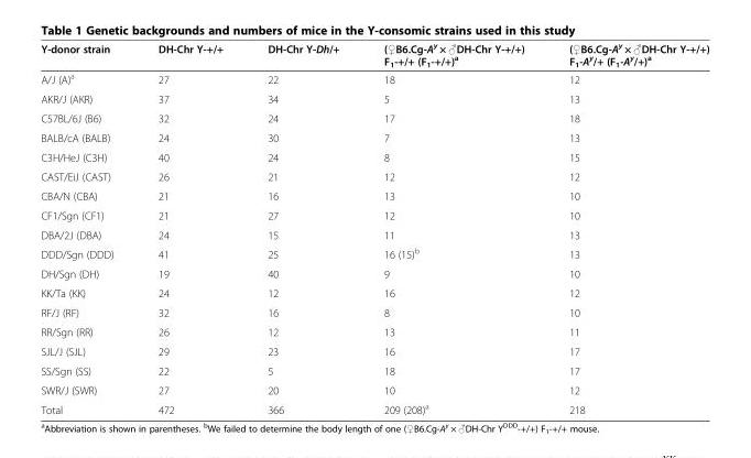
<table><thead><tr><td>Y-donor strain</td><td>DH-Chr Y-+/+</td><td>DH-Chr Y-Dh/+</td><td>(♀B6.Cg-A<sup>y</sup> × ♂DH-Chr Y-+/+) F<sub>1</sub>-+/+ (F<sub>1</sub>-+/+)<sup>a</sup></td><td>(♀B6.Cg-Ay × ♂DH-Chr Y-+/+) F1-Ay/+ (F1-Ay/+)a</td></tr></thead><tbody><tr><td>A/J (A)<sup>a</sup></td><td>27</td><td>22</td><td>18</td><td>12</td></tr><tr><td>AKR/J (AKR)</td><td>37</td><td>34</td><td>5</td><td>13</td></tr><tr><td>C57BL/6J (B6)</td><td>32</td><td>24</td><td>17</td><td>18</td></tr><tr><td>BALB/cA (BALB)</td><td>24</td><td>30</td><td>7</td><td>13</td></tr><tr><td>C3H/HeJ (C3H)</td><td>40</td><td>24</td><td>8</td><td>15</td></tr><tr><td>CAST/EiJ (CAST)</td><td>26</td><td>21</td><td>12</td><td>12</td></tr><tr><td>CBA/N (CBA)</td><td>21</td><td>16</td><td>13</td><td>10</td></tr><tr><td>CF1/Sgn (CF1)</td><td>21</td><td>27</td><td>12</td><td>10</td></tr><tr><td>DBA/2J (DBA)</td><td>24</td><td>15</td><td>11</td><td>13</td></tr><tr><td>DDD/Sgn (DDD)</td><td>41</td><td>25</td><td>16 (15)<sup>b</sup></td><td>13</td></tr><tr><td>DH/Sgn (DH)</td><td>19</td><td>40</td><td>9</td><td>10</td></tr><tr><td>KK/Ta (KK)</td><td>24</td><td>12</td><td>16</td><td>12</td></tr><tr><td>RF/J (RF)</td><td>32</td><td>16</td><td>8</td><td>10</td></tr><tr><td>RR/Sgn (RR)</td><td>26</td><td>12</td><td>13</td><td>11</td></tr><tr><td>SJL/J (SJL)</td><td>29</td><td>23</td><td>16</td><td>17</td></tr><tr><td>SS/Sgn (SS)</td><td>22</td><td>5</td><td>18</td><td>17</td></tr><tr><td>SWR/J (SWR)</td><td>27</td><td>20</td><td>10</td><td>12</td></tr><tr><td>Total</td><td>472</td><td>366</td><td>209 (208)<sup>a</sup></td><td>218</td></tr></tbody></table>